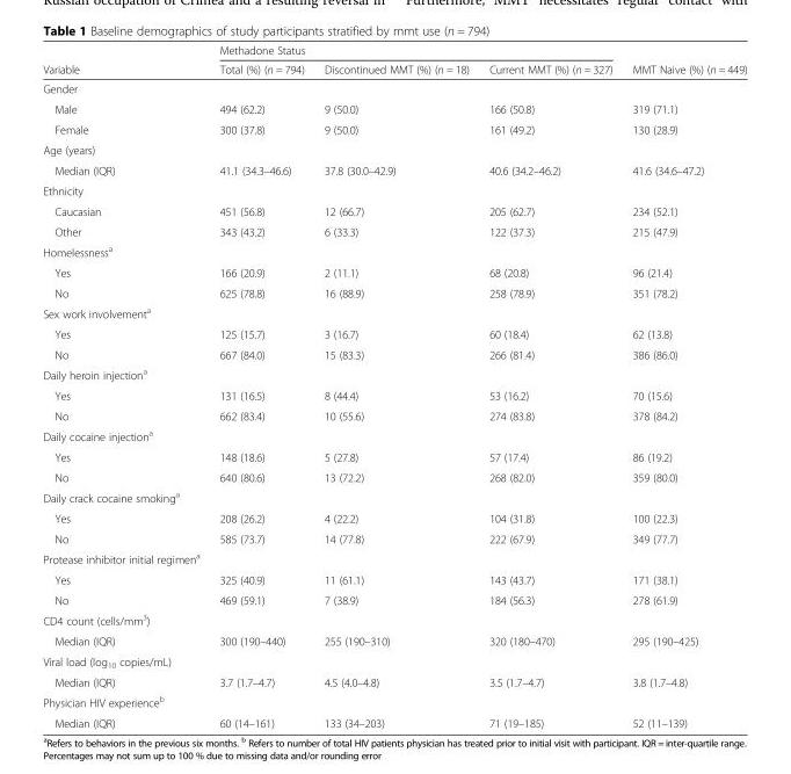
<table><thead><tr><td rowspan="2">Variable</td><td colspan="3">Methadone Status</td><td rowspan="2">MMT Naive (%) (n = 449)</td></tr><tr><td>Total (%) (n = 794)</td><td>Discontinued MMT (%) (n = 18)</td><td>Current MMT (%) (n = 327)</td></tr></thead><tbody><tr><td colspan="5">Gender</td></tr><tr><td>Male</td><td>494 (62.2)</td><td>9 (50.0)</td><td>166 (50.8)</td><td>319 (71.1)</td></tr><tr><td>Female</td><td>300 (37.8)</td><td>9 (50.0)</td><td>161 (49.2)</td><td>130 (28.9)</td></tr><tr><td colspan="5">Age (years)</td></tr><tr><td>Median (IQR)</td><td>41.1 (34.3–46.6)</td><td>37.8 (30.0–42.9)</td><td>40.6 (34.2–46.2)</td><td>41.6 (34.6–47.2)</td></tr><tr><td colspan="5">Ethnicity</td></tr><tr><td>Caucasian</td><td>451 (56.8)</td><td>12 (66.7)</td><td>205 (62.7)</td><td>234 (52.1)</td></tr><tr><td>Other</td><td>343 (43.2)</td><td>6 (33.3)</td><td>122 (37.3)</td><td>215 (47.9)</td></tr><tr><td colspan="5">Homelessness<sup>a</sup></td></tr><tr><td>Yes</td><td>166 (20.9)</td><td>2 (11.1)</td><td>68 (20.8)</td><td>96 (21.4)</td></tr><tr><td>No</td><td>625 (78.8)</td><td>16 (88.9)</td><td>258 (78.9)</td><td>351 (78.2)</td></tr><tr><td colspan="5">Sex work involvement<sup>a</sup></td></tr><tr><td>Yes</td><td>125 (15.7)</td><td>3 (16.7)</td><td>60 (18.4)</td><td>62 (13.8)</td></tr><tr><td>No</td><td>667 (84.0)</td><td>15 (83.3)</td><td>266 (81.4)</td><td>386 (86.0)</td></tr><tr><td colspan="5">Daily heroin injection<sup>a</sup></td></tr><tr><td>Yes</td><td>131 (16.5)</td><td>8 (44.4)</td><td>53 (16.2)</td><td>70 (15.6)</td></tr><tr><td>No</td><td>662 (83.4)</td><td>10 (55.6)</td><td>274 (83.8)</td><td>378 (84.2)</td></tr><tr><td colspan="5">Daily cocaine injection<sup>a</sup></td></tr><tr><td>Yes</td><td>148 (18.6)</td><td>5 (27.8)</td><td>57 (17.4)</td><td>86 (19.2)</td></tr><tr><td>No</td><td>640 (80.6)</td><td>13 (72.2)</td><td>268 (82.0)</td><td>359 (80.0)</td></tr><tr><td colspan="5">Daily crack cocaine smoking<sup>a</sup></td></tr><tr><td>Yes</td><td>208 (26.2)</td><td>4 (22.2)</td><td>104 (31.8)</td><td>100 (22.3)</td></tr><tr><td>No</td><td>585 (73.7)</td><td>14 (77.8)</td><td>222 (67.9)</td><td>349 (77.7)</td></tr><tr><td colspan="5">Protease inhibitor initial regimen<sup>a</sup></td></tr><tr><td>Yes</td><td>325 (40.9)</td><td>11 (61.1)</td><td>143 (43.7)</td><td>171 (38.1)</td></tr><tr><td>No</td><td>469 (59.1)</td><td>7 (38.9)</td><td>184 (56.3)</td><td>278 (61.9)</td></tr><tr><td colspan="5">CD4 count (cells/mm<sup>3</sup>)</td></tr><tr><td>Median (IQR)</td><td>300 (190–440)</td><td>255 (190–310)</td><td>320 (180–470)</td><td>295 (190–425)</td></tr><tr><td colspan="5">Viral load (log<sub>10</sub> copies/mL)</td></tr><tr><td>Median (IQR)</td><td>3.7 (1.7–4.7)</td><td>4.5 (4.0–4.8)</td><td>3.5 (1.7–4.7)</td><td>3.8 (1.7–4.8)</td></tr><tr><td colspan="5">Physician HIV experience<sup>b</sup></td></tr><tr><td>Median (IQR)</td><td>60 (14–161)</td><td>133 (34–203)</td><td>71 (19–185)</td><td>52 (11–139)</td></tr></tbody></table>